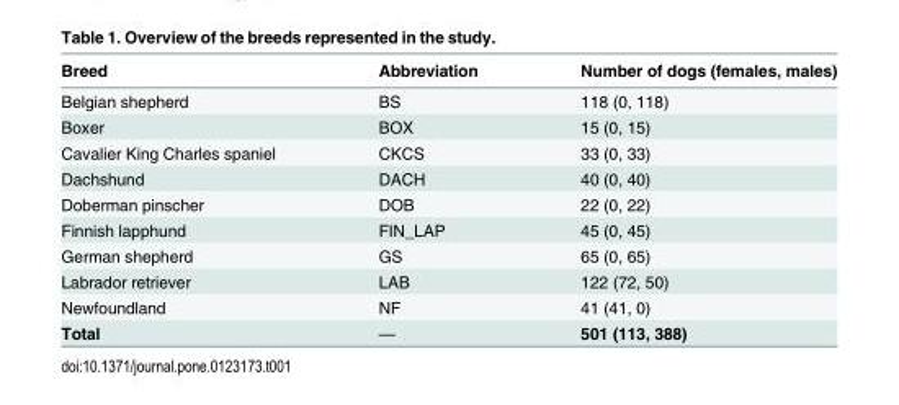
<table><thead><tr><td>Breed</td><td>Abbreviation</td><td>Number of dogs (females, males)</td></tr></thead><tbody><tr><td>Belgian shepherd</td><td>BS</td><td>118 (0, 118)</td></tr><tr><td>Boxer</td><td>BOX</td><td>15 (0, 15)</td></tr><tr><td>Cavalier King Charles spaniel</td><td>CKCS</td><td>33 (0, 33)</td></tr><tr><td>Dachshund</td><td>DACH</td><td>40 (0, 40)</td></tr><tr><td>Doberman pinscher</td><td>DOB</td><td>22 (0, 22)</td></tr><tr><td>Finnish lapphund</td><td>FIN_LAP</td><td>45 (0, 45)</td></tr><tr><td>German shepherd</td><td>GS</td><td>65 (0, 65)</td></tr><tr><td>Labrador retriever</td><td>LAB</td><td>122 (72, 50)</td></tr><tr><td>Newfoundland</td><td>NF</td><td>41 (41, 0)</td></tr><tr><td>Total</td><td>—</td><td>501 (113, 388)</td></tr></tbody></table>